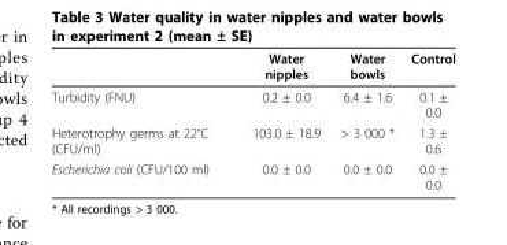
<table><thead><tr><td></td><td>Water nipples</td><td>Water bowls</td><td>Control</td></tr></thead><tbody><tr><td>Turbidity (FNU)</td><td>0.2 ± 0.0</td><td>6.4 ± 1.6</td><td>0.1 ± 0.0</td></tr><tr><td>Heterotrophy germs at 22°C (CFU/ml)</td><td>103.0 ± 18.9</td><td>&gt; 3 000 *</td><td>1.3 ± 0.6</td></tr><tr><td>Escherichia coli (CFU/100 ml)</td><td>0.0 ± 0.0</td><td>0.0 ± 0.0</td><td>0.0 ± 0.0</td></tr></tbody></table>